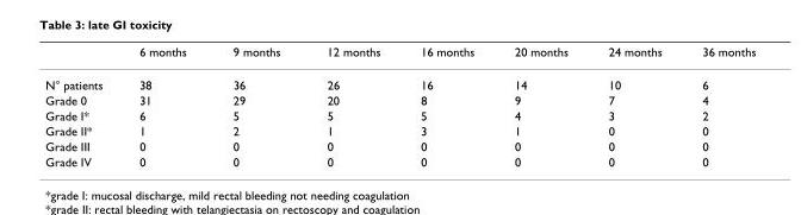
<table><thead><tr><td></td><td>6 months</td><td>9 months</td><td>12 months</td><td>16 months</td><td>20 months</td><td>24 months</td><td>36 months</td></tr></thead><tbody><tr><td>N° patients</td><td>38</td><td>36</td><td>26</td><td>16</td><td>14</td><td>10</td><td>6</td></tr><tr><td>Grade 0</td><td>31</td><td>29</td><td>20</td><td>8</td><td>9</td><td>7</td><td>4</td></tr><tr><td>Grade I*</td><td>6</td><td>5</td><td>5</td><td>5</td><td>4</td><td>3</td><td>2</td></tr><tr><td>Grade II*</td><td>1</td><td>2</td><td>1</td><td>3</td><td>1</td><td>0</td><td>0</td></tr><tr><td>Grade III</td><td>0</td><td>0</td><td>0</td><td>0</td><td>0</td><td>0</td><td>0</td></tr><tr><td>Grade IV</td><td>0</td><td>0</td><td>0</td><td>0</td><td>0</td><td>0</td><td>0</td></tr></tbody></table>